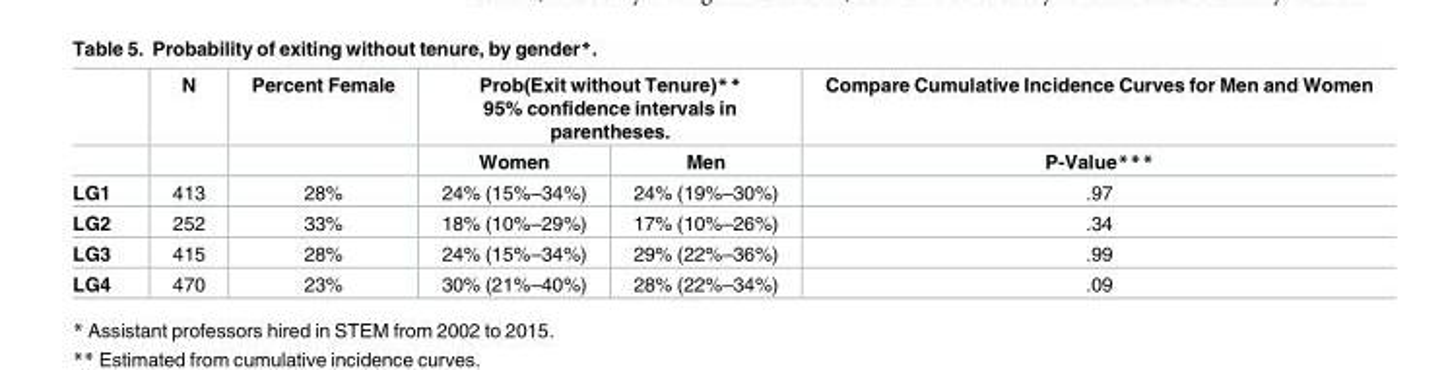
<table><thead><tr><td rowspan="2"></td><td rowspan="2">N</td><td rowspan="2">Percent Female</td><td colspan="2">Prob(Exit without Tenure)** 95% confidence intervals in parentheses.</td><td rowspan="2">Compare Cumulative Incidence Curves for Men and Women P-Value***</td></tr><tr><td>Women</td><td>Men</td></tr></thead><tbody><tr><td>LG1</td><td>413</td><td>28%</td><td>24% (15%–34%)</td><td>24% (19%–30%)</td><td>.97</td></tr><tr><td>LG2</td><td>252</td><td>33%</td><td>18% (10%–29%)</td><td>17% (10%–26%)</td><td>.34</td></tr><tr><td>LG3</td><td>415</td><td>28%</td><td>24% (15%–34%)</td><td>29% (22%–36%)</td><td>.99</td></tr><tr><td>LG4</td><td>470</td><td>23%</td><td>30% (21%–40%)</td><td>28% (22%–34%)</td><td>.09</td></tr></tbody></table>